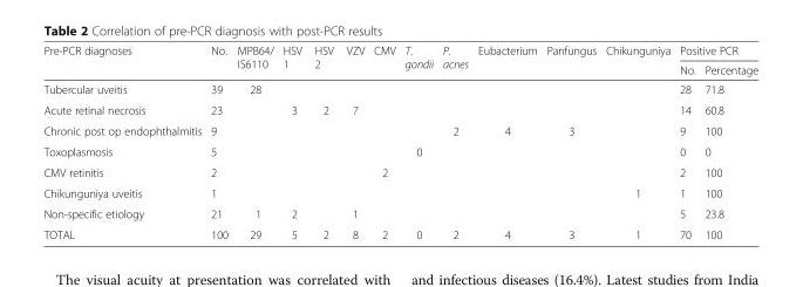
<table><thead><tr><td rowspan="2">Pre-PCR diagnoses</td><td rowspan="2">No.</td><td rowspan="2">MPB64/ IS6110</td><td rowspan="2">HSV 1</td><td rowspan="2">HSV 2</td><td rowspan="2">VZV</td><td rowspan="2">CMV</td><td rowspan="2">T. gondii</td><td rowspan="2">P. acnes</td><td rowspan="2">Eubacterium</td><td rowspan="2">Panfungus</td><td rowspan="2">Chikunguniya</td><td colspan="2">Positive PCR</td></tr><tr><td>No.</td><td>Percentage</td></tr></thead><tbody><tr><td>Tubercular uveitis</td><td>39</td><td>28</td><td></td><td></td><td></td><td></td><td></td><td></td><td></td><td></td><td></td><td>28</td><td>71.8</td></tr><tr><td>Acute retinal necrosis</td><td>23</td><td></td><td>3</td><td>2</td><td>7</td><td></td><td></td><td></td><td></td><td></td><td></td><td>14</td><td>60.8</td></tr><tr><td>Chronic post op endophthalmitis</td><td>9</td><td></td><td></td><td></td><td></td><td></td><td></td><td>2</td><td>4</td><td>3</td><td></td><td>9</td><td>100</td></tr><tr><td>Toxoplasmosis</td><td>5</td><td></td><td></td><td></td><td></td><td></td><td>0</td><td></td><td></td><td></td><td></td><td>0</td><td>0</td></tr><tr><td>CMV retinitis</td><td>2</td><td></td><td></td><td></td><td></td><td>2</td><td></td><td></td><td></td><td></td><td></td><td>2</td><td>100</td></tr><tr><td>Chikunguniya uveitis</td><td>1</td><td></td><td></td><td></td><td></td><td></td><td></td><td></td><td></td><td></td><td>1</td><td>1</td><td>100</td></tr><tr><td>Non-specific etiology</td><td>21</td><td>1</td><td>2</td><td></td><td>1</td><td></td><td></td><td></td><td></td><td></td><td></td><td>5</td><td>23.8</td></tr><tr><td>TOTAL</td><td>100</td><td>29</td><td>5</td><td>2</td><td>8</td><td>2</td><td>0</td><td>2</td><td>4</td><td>3</td><td>1</td><td>70</td><td>100</td></tr></tbody></table>